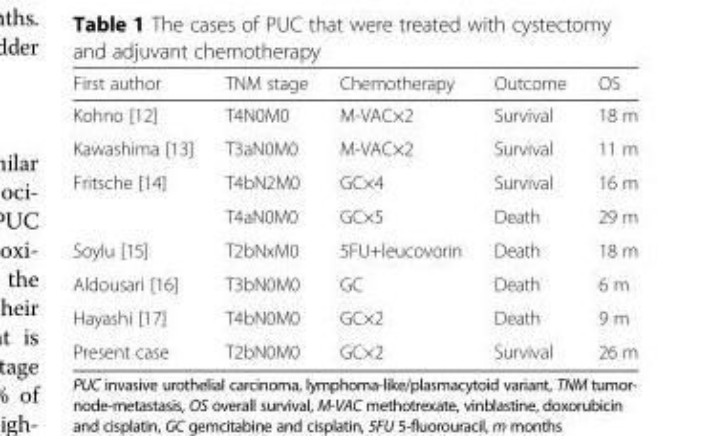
<table><thead><tr><td>First author</td><td>TNM stage</td><td>Chemotherapy</td><td>Outcome</td><td>OS</td></tr></thead><tbody><tr><td>Kohno [12]</td><td>T4N0M0</td><td>M-VAC×2</td><td>Survival</td><td>18 m</td></tr><tr><td>Kawashima [13]</td><td>T3aN0M0</td><td>M-VAC×2</td><td>Survival</td><td>11 m</td></tr><tr><td rowspan="2">Fritsche [14]</td><td>T4bN2M0</td><td>GC×4</td><td>Survival</td><td>16 m</td></tr><tr><td>T4aN0M0</td><td>GC×5</td><td>Death</td><td>29 m</td></tr><tr><td>Soylu [15]</td><td>T2bNxM0</td><td>5FU+leucovorin</td><td>Death</td><td>18 m</td></tr><tr><td>Aldousari [16]</td><td>T3bN0M0</td><td>GC</td><td>Death</td><td>6 m</td></tr><tr><td>Hayashi [17]</td><td>T4bN0M0</td><td>GC×2</td><td>Death</td><td>9 m</td></tr><tr><td>Present case</td><td>T2bN0M0</td><td>GC×2</td><td>Survival</td><td>26 m</td></tr></tbody></table>